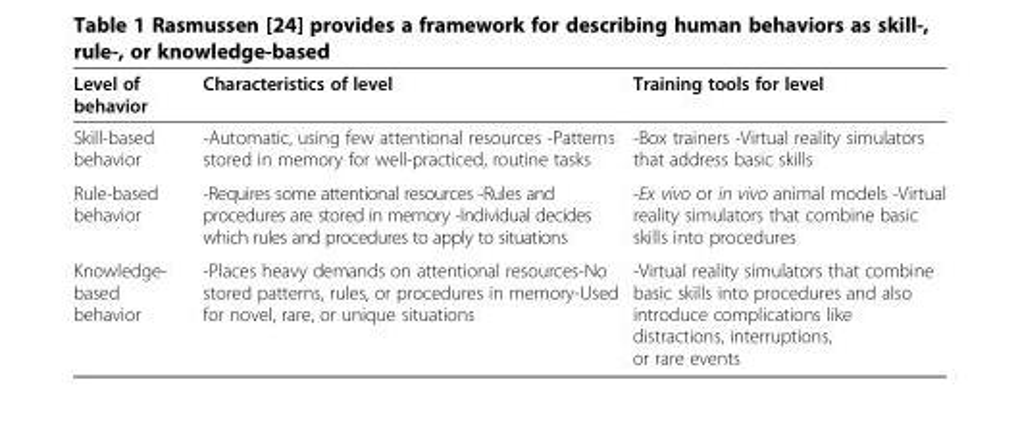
<table><thead><tr><td>Level of behavior</td><td>Characteristics of level</td><td>Training tools for level</td></tr></thead><tbody><tr><td>Skill-based behavior</td><td>-Automatic, using few attentional resources -Patterns stored in memory for well-practiced, routine tasks</td><td>-Box trainers -Virtual reality simulators that address basic skills</td></tr><tr><td>Rule-based behavior</td><td>-Requires some attentional resources -Rules and procedures are stored in memory -Individual decides which rules and procedures to apply to situations</td><td>-Ex vivo or in vivo animal models -Virtual reality simulators that combine basic skills into procedures</td></tr><tr><td>Knowledge- based behavior</td><td>-Places heavy demands on attentional resources-No stored patterns, rules, or procedures in memory-Used for novel, rare, or unique situations</td><td>-Virtual reality simulators that combine basic skills into procedures and also introduce complications like distractions, interruptions, or rare events</td></tr></tbody></table>